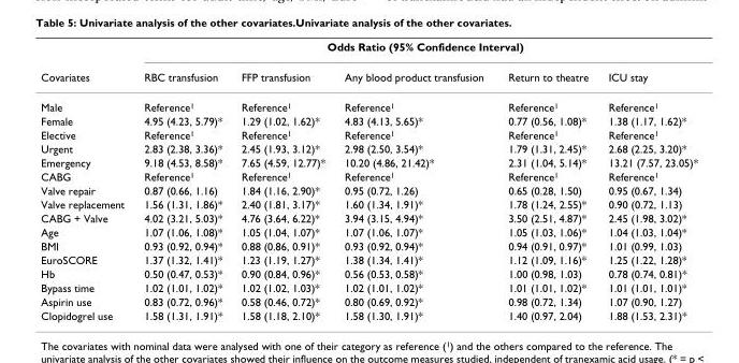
<table><thead><tr><td rowspan="2">Covariates</td><td colspan="5">Odds Ratio (95% Confidence Interval)</td></tr><tr><td>RBC transfusion</td><td>FFP transfusion</td><td>Any blood product transfusion</td><td>Return to theatre</td><td>ICU stay</td></tr></thead><tbody><tr><td>Male</td><td>Reference<sup>1</sup></td><td>Reference<sup>1</sup></td><td>Reference<sup>1</sup></td><td>Reference<sup>1</sup></td><td>Reference<sup>1</sup></td></tr><tr><td>Female</td><td>4.95 (4.23, 5.79)*</td><td>1.29 (1.02, 1.62)*</td><td>4.83 (4.13, 5.65)*</td><td>0.77 (0.56, 1.08)*</td><td>1.38 (1.17, 1.62)*</td></tr><tr><td>Elective</td><td>Reference<sup>1</sup></td><td>Reference<sup>1</sup></td><td>Reference<sup>1</sup></td><td>Reference<sup>1</sup></td><td>Reference<sup>1</sup></td></tr><tr><td>Urgent</td><td>2.83 (2.38, 3.36)*</td><td>2.45 (1.93, 3.12)*</td><td>2.98 (2.50, 3.54)*</td><td>1.79 (1.31, 2.45)*</td><td>2.68 (2.25, 3.20)*</td></tr><tr><td>Emergency</td><td>9.18 (4.53, 8.58)*</td><td>7.65 (4.59, 12.77)*</td><td>10.20 (4.86, 21.42)*</td><td>2.31 (1.04, 5.14)*</td><td>13.21 (7.57, 23.05)*</td></tr><tr><td>CABG</td><td>Reference<sup>1</sup></td><td>Reference<sup>1</sup></td><td>Reference<sup>1</sup></td><td>Reference<sup>1</sup></td><td>Reference<sup>1</sup></td></tr><tr><td>Valve repair</td><td>0.87 (0.66, 1.16)</td><td>1.84 (1.16, 2.90)*</td><td>0.95 (0.72, 1.26)</td><td>0.65 (0.28, 1.50)</td><td>0.95 (0.67, 1.34)</td></tr><tr><td>Valve replacement</td><td>1.56 (1.31, 1.86)*</td><td>2.40 (1.81, 3.17)*</td><td>1.60 (1.34, 1.91)*</td><td>1.78 (1.24, 2.55)*</td><td>0.90 (0.72, 1.13)</td></tr><tr><td>CABG + Valve</td><td>4.02 (3.21, 5.03)*</td><td>4.76 (3.64, 6.22)*</td><td>3.94 (3.15, 4.94)*</td><td>3.50 (2.51, 4.87)*</td><td>2.45 (1.98, 3.02)*</td></tr><tr><td>Age</td><td>1.07 (1.06, 1.08)*</td><td>1.05 (1.04, 1.07)*</td><td>1.07 (1.06, 1.07)*</td><td>1.05 (1.03, 1.06)*</td><td>1.04 (1.03, 1.04)*</td></tr><tr><td>BMI</td><td>0.93 (0.92, 0.94)*</td><td>0.88 (0.86, 0.91)*</td><td>0.93 (0.92, 0.94)*</td><td>0.94 (0.91, 0.97)*</td><td>1.01 (0.99, 1.03)</td></tr><tr><td>EuroSCORE</td><td>1.37 (1.32, 1.41)*</td><td>1.23 (1.19, 1.27)*</td><td>1.38 (1.34, 1.41)*</td><td>1.12 (1.09, 1.16)*</td><td>1.25 (1.22, 1.28)*</td></tr><tr><td>Hb</td><td>0.50 (0.47, 0.53)*</td><td>0.90 (0.84, 0.96)*</td><td>0.56 (0.53, 0.58)*</td><td>1.00 (0.98, 1.03)</td><td>0.78 (0.74, 0.81)*</td></tr><tr><td>Bypass time</td><td>1.02 (1.01, 1.02)*</td><td>1.02 (1.02, 1.03)*</td><td>1.02 (1.01, 1.02)*</td><td>1.01 (1.01, 1.02)*</td><td>1.01 (1.01, 1.01)*</td></tr><tr><td>Aspirin use</td><td>0.83 (0.72, 0.96)*</td><td>0.58 (0.46, 0.72)*</td><td>0.80 (0.69, 0.92)*</td><td>0.98 (0.72, 1.34)</td><td>1.07 (0.90, 1.27)</td></tr><tr><td>Clopidogrel use</td><td>1.58 (1.31, 1.91)*</td><td>1.58 (1.18, 2.10)*</td><td>1.58 (1.30, 1.91)*</td><td>1.40 (0.97, 2.04)</td><td>1.88 (1.53, 2.31)*</td></tr></tbody></table>